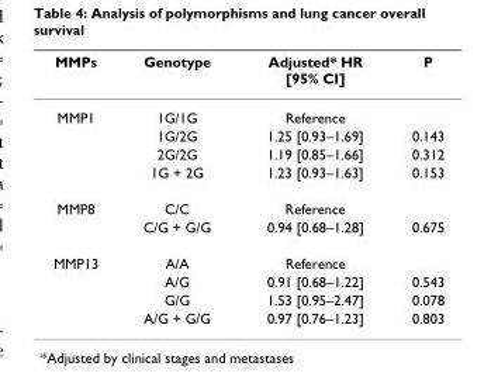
<table><thead><tr><td>MMPs</td><td>Genotype</td><td>Adjusted* HR [95% CI]</td><td>P</td></tr></thead><tbody><tr><td rowspan="4">MMP1</td><td>1G/1G</td><td>Reference</td><td></td></tr><tr><td>1G/2G</td><td>1.25 [0.93–1.69]</td><td>0.143</td></tr><tr><td>2G/2G</td><td>1.19 [0.85–1.66]</td><td>0.312</td></tr><tr><td>1G + 2G</td><td>1.23 [0.93–1.63]</td><td>0.153</td></tr><tr><td rowspan="2">MMP8</td><td>C/C</td><td>Reference</td><td></td></tr><tr><td>C/G + G/G</td><td>0.94 [0.68–1.28]</td><td>0.675</td></tr><tr><td rowspan="4">MMP13</td><td>A/A</td><td>Reference</td><td></td></tr><tr><td>A/G</td><td>0.91 [0.68–1.22]</td><td>0.543</td></tr><tr><td>G/G</td><td>1.53 [0.95–2.47]</td><td>0.078</td></tr><tr><td>A/G + G/G</td><td>0.97 [0.76–1.23]</td><td>0.803</td></tr></tbody></table>